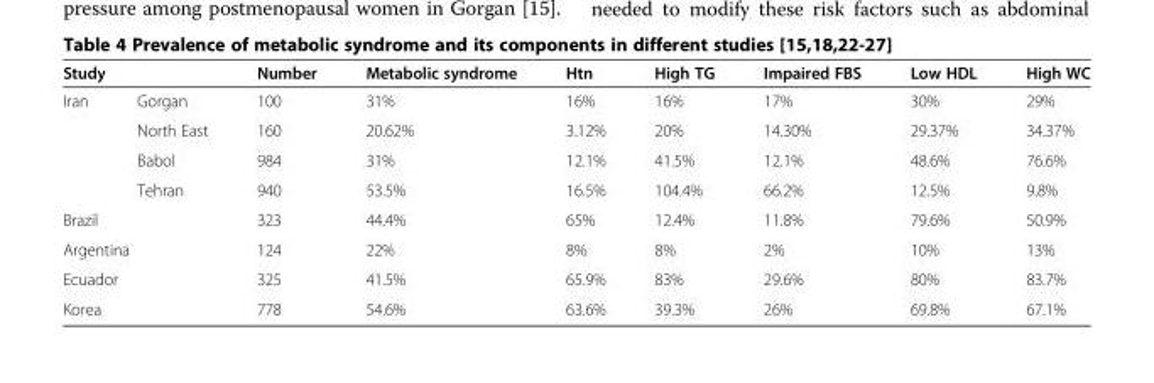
<table><thead><tr><td>Study</td><td></td><td>Number</td><td>Metabolic syndrome</td><td>Htn</td><td>High TG</td><td>Impaired FBS</td><td>Low HDL</td><td>High WC</td></tr></thead><tbody><tr><td rowspan="4">Iran</td><td>Gorgan</td><td>100</td><td>31%</td><td>16%</td><td>16%</td><td>17%</td><td>30%</td><td>29%</td></tr><tr><td>North East</td><td>160</td><td>20.62%</td><td>3.12%</td><td>20%</td><td>14.30%</td><td>29.37%</td><td>34.37%</td></tr><tr><td>Babol</td><td>984</td><td>31%</td><td>12.1%</td><td>41.5%</td><td>12.1%</td><td>48.6%</td><td>76.6%</td></tr><tr><td>Tehran</td><td>940</td><td>53.5%</td><td>16.5%</td><td>104.4%</td><td>66.2%</td><td>12.5%</td><td>9.8%</td></tr><tr><td>Brazil</td><td></td><td>323</td><td>44.4%</td><td>65%</td><td>12.4%</td><td>11.8%</td><td>79.6%</td><td>50.9%</td></tr><tr><td>Argentina</td><td></td><td>124</td><td>22%</td><td>8%</td><td>8%</td><td>2%</td><td>10%</td><td>13%</td></tr><tr><td>Ecuador</td><td></td><td>325</td><td>41.5%</td><td>65.9%</td><td>83%</td><td>29.6%</td><td>80%</td><td>83.7%</td></tr><tr><td>Korea</td><td></td><td>778</td><td>54.6%</td><td>63.6%</td><td>39.3%</td><td>26%</td><td>69.8%</td><td>67.1%</td></tr></tbody></table>